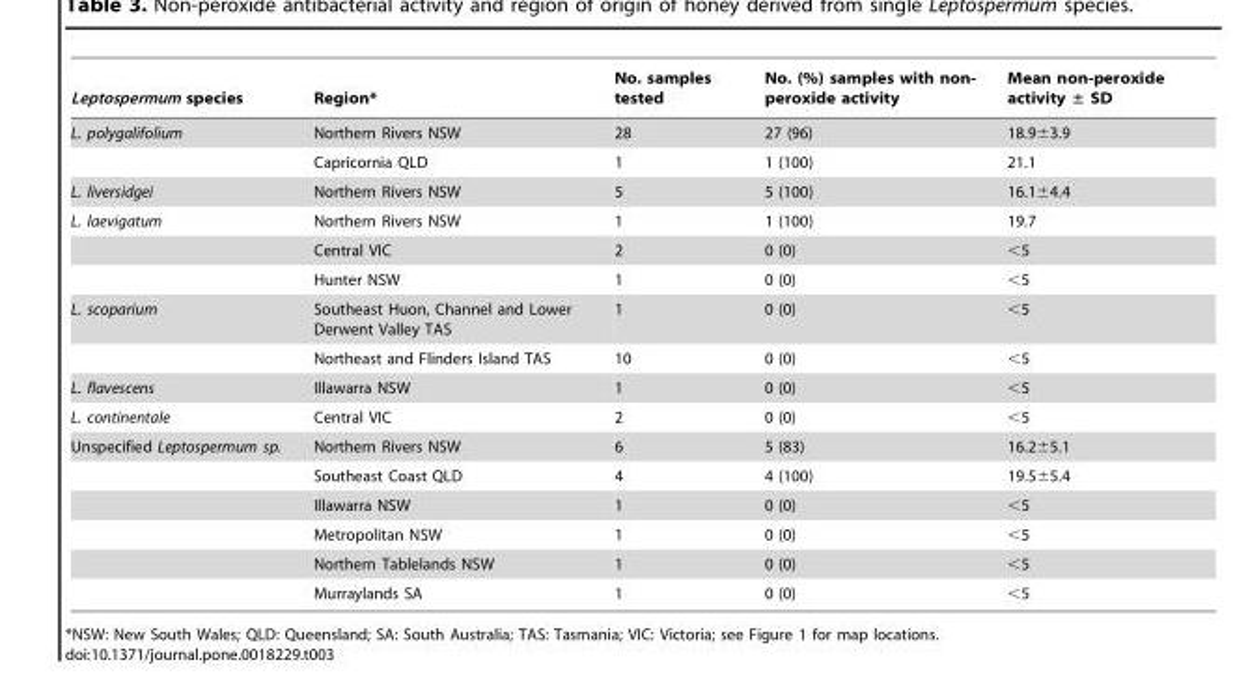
<table><thead><tr><td>Leptospermum species</td><td>Region*</td><td>No. samples tested</td><td>No. (%) samples with non- peroxide activity</td><td>Mean non-peroxide activity ± SD</td></tr></thead><tbody><tr><td rowspan="2">L. polygalifolium</td><td>Northern Rivers NSW</td><td>28</td><td>27 (96)</td><td>18.9±3.9</td></tr><tr><td>Capricornia QLD</td><td>1</td><td>1 (100)</td><td>21.1</td></tr><tr><td>L. liversidgei</td><td>Northern Rivers NSW</td><td>5</td><td>5 (100)</td><td>16.1±4.4</td></tr><tr><td rowspan="3">L. laevigatum</td><td>Northern Rivers NSW</td><td>1</td><td>1 (100)</td><td>19.7</td></tr><tr><td>Central VIC</td><td>2</td><td>0 (0)</td><td>&lt;5</td></tr><tr><td>Hunter NSW</td><td>1</td><td>0 (0)</td><td>&lt;5</td></tr><tr><td rowspan="2">L. scoparium</td><td>Southeast Huon, Channel and Lower Derwent Valley TAS</td><td>1</td><td>0 (0)</td><td>&lt;5</td></tr><tr><td>Northeast and Flinders Island TAS</td><td>10</td><td>0 (0)</td><td>&lt;5</td></tr><tr><td>L. flavescens</td><td>Illawarra NSW</td><td>1</td><td>0 (0)</td><td>&lt;5</td></tr><tr><td>L. continentale</td><td>Central VIC</td><td>2</td><td>0 (0)</td><td>&lt;5</td></tr><tr><td rowspan="6">Unspecified Leptospermum sp.</td><td>Northern Rivers NSW</td><td>6</td><td>5 (83)</td><td>16.2±5.1</td></tr><tr><td>Southeast Coast QLD</td><td>4</td><td>4 (100)</td><td>19.5±5.4</td></tr><tr><td>Illawarra NSW</td><td>1</td><td>0 (0)</td><td>&lt;5</td></tr><tr><td>Metropolitan NSW</td><td>1</td><td>0 (0)</td><td>&lt;5</td></tr><tr><td>Northern Tablelands NSW</td><td>1</td><td>0 (0)</td><td>&lt;5</td></tr><tr><td>Murraylands SA</td><td>1</td><td>0 (0)</td><td>&lt;5</td></tr></tbody></table>